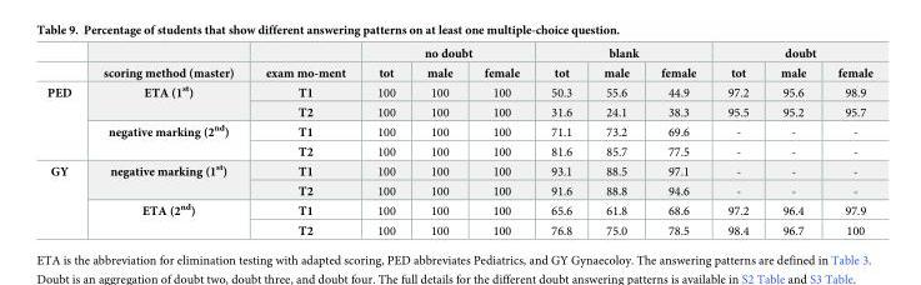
<table><thead><tr><td rowspan="2"></td><td rowspan="2">scoring method (master)</td><td rowspan="2">exam mo-ment</td><td colspan="3">no doubt</td><td colspan="3">blank</td><td colspan="3">doubt</td></tr><tr><td>tot</td><td>male</td><td>female</td><td>tot</td><td>male</td><td>female</td><td>tot</td><td>male</td><td>female</td></tr></thead><tbody><tr><td rowspan="4">PED</td><td rowspan="2">ETA (1<sup>st</sup>)</td><td>T1</td><td>100</td><td>100</td><td>100</td><td>50.3</td><td>55.6</td><td>44.9</td><td>97.2</td><td>95.6</td><td>98.9</td></tr><tr><td>T2</td><td>100</td><td>100</td><td>100</td><td>31.6</td><td>24.1</td><td>38.3</td><td>95.5</td><td>95.2</td><td>95.7</td></tr><tr><td rowspan="2">negative marking (2<sup>nd</sup>)</td><td>T1</td><td>100</td><td>100</td><td>100</td><td>71.1</td><td>73.2</td><td>69.6</td><td>-</td><td>-</td><td>-</td></tr><tr><td>T2</td><td>100</td><td>100</td><td>100</td><td>81.6</td><td>85.7</td><td>77.5</td><td>-</td><td>-</td><td>-</td></tr><tr><td rowspan="4">GY</td><td rowspan="2">negative marking (1<sup>st</sup>)</td><td>T1</td><td>100</td><td>100</td><td>100</td><td>93.1</td><td>88.5</td><td>97.1</td><td>-</td><td>-</td><td>-</td></tr><tr><td>T2</td><td>100</td><td>100</td><td>100</td><td>91.6</td><td>88.8</td><td>94.6</td><td>-</td><td>-</td><td>-</td></tr><tr><td rowspan="2">ETA (2<sup>nd</sup>)</td><td>T1</td><td>100</td><td>100</td><td>100</td><td>65.6</td><td>61.8</td><td>68.6</td><td>97.2</td><td>96.4</td><td>97.9</td></tr><tr><td>T2</td><td>100</td><td>100</td><td>100</td><td>76.8</td><td>75.0</td><td>78.5</td><td>98.4</td><td>96.7</td><td>100</td></tr></tbody></table>